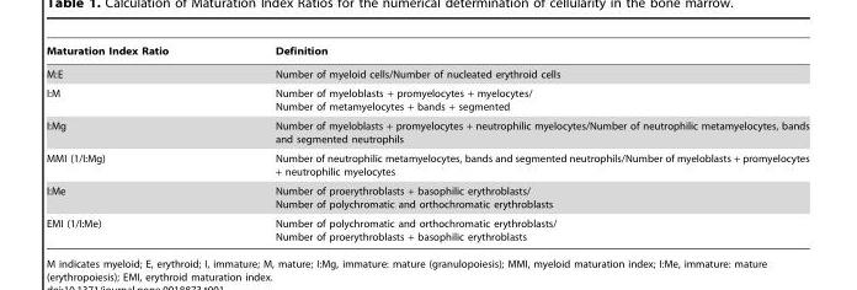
<table><thead><tr><td>Maturation Index Ratio</td><td>Definition</td></tr></thead><tbody><tr><td>M:E</td><td>Number of myeloid cells/Number of nucleated erythroid cells</td></tr><tr><td>I:M</td><td>Number of myeloblasts + promyelocytes + myelocytes/ Number of metamyelocytes + bands + segmented</td></tr><tr><td>I:Mg</td><td>Number of myeloblasts + promyelocytes + neutrophilic myelocytes/Number of neutrophilic metamyelocytes, bands and segmented neutrophils</td></tr><tr><td>MMI (1/I:Mg)</td><td>Number of neutrophilic metamyelocytes, bands and segmented neutrophils/Number of myeloblasts + promyelocytes + neutrophilic myelocytes</td></tr><tr><td>I:Me</td><td>Number of proerythroblasts + basophilic erythroblasts/ Number of polychromatic and orthochromatic erythroblasts</td></tr><tr><td>EMI (1/I:Me)</td><td>Number of polychromatic and orthochromatic erythroblasts/ Number of proerythroblasts + basophilic erythroblasts</td></tr></tbody></table>